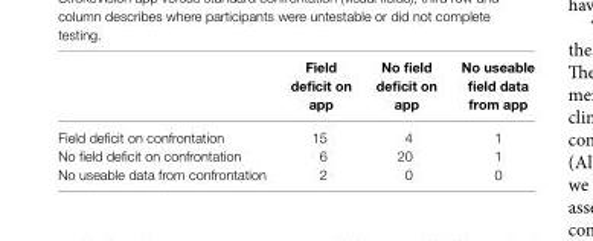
<table><thead><tr><td></td><td>Field deficit on app</td><td>no field deficit on app</td><td>no useable field data from app</td></tr></thead><tbody><tr><td>Field deficit on confrontation</td><td>15</td><td>4</td><td>1</td></tr><tr><td>No field deficit on confrontation</td><td>6</td><td>20</td><td>1</td></tr><tr><td>No useable data from confrontation</td><td>2</td><td>0</td><td>0</td></tr></tbody></table>